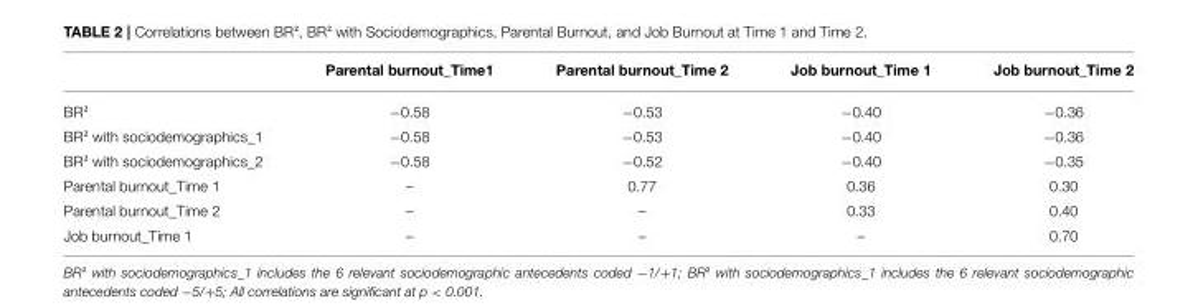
<table><thead><tr><td></td><td>Parental burnout_Time1</td><td>Parental burnout_Time 2</td><td>Job burnout_Time 1</td><td>Job burnout_Time 2</td></tr></thead><tbody><tr><td>BR²</td><td>−0.58</td><td>−0.53</td><td>−0.40</td><td>−0.36</td></tr><tr><td>BR² with sociodemographics_1</td><td>−0.58</td><td>−0.53</td><td>−0.40</td><td>−0.36</td></tr><tr><td>BR² with sociodemographics_2</td><td>−0.58</td><td>−0.52</td><td>−0.40</td><td>−0.35</td></tr><tr><td>Parental burnout_Time 1</td><td>–</td><td>0.77</td><td>0.36</td><td>0.30</td></tr><tr><td>Parental burnout_Time 2</td><td>–</td><td>–</td><td>0.33</td><td>0.40</td></tr><tr><td>Job burnout_Time 1</td><td>–</td><td>–</td><td>–</td><td>0.70</td></tr></tbody></table>